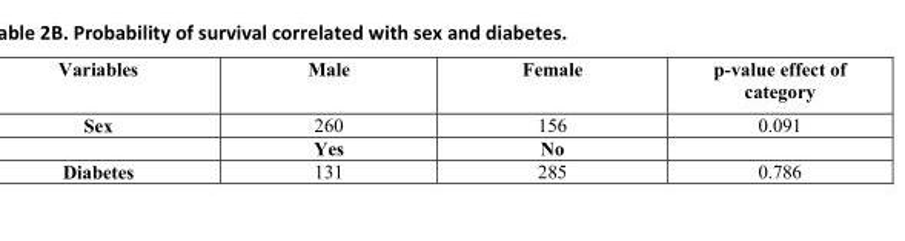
<table><tbody><tr><td>Variables</td><td>Male</td><td>Female</td><td>p-value effect of category</td></tr><tr><td rowspan="2">Sex</td><td>260</td><td>156</td><td>0.091</td></tr><tr><td>Yes</td><td>No</td><td></td></tr><tr><td>Diabetes</td><td>131</td><td>285</td><td>0.786</td></tr></tbody></table>